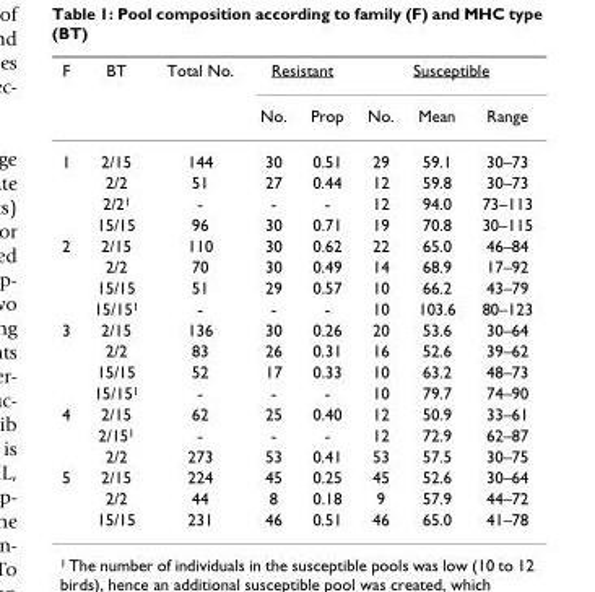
<table><thead><tr><td rowspan="2">F</td><td rowspan="2">BT</td><td rowspan="2">Total No.</td><td colspan="2">Resistant</td><td colspan="3">Susceptible</td></tr><tr><td>No.</td><td>Prop</td><td>No.</td><td>Mean</td><td>Range</td></tr></thead><tbody><tr><td rowspan="4">1</td><td>2/15</td><td>144</td><td>30</td><td>0.51</td><td>29</td><td>59.1</td><td>30–73</td></tr><tr><td>2/2</td><td>51</td><td>27</td><td>0.44</td><td>12</td><td>59.8</td><td>30–73</td></tr><tr><td>2/2<sup>1</sup></td><td>-</td><td>-</td><td>-</td><td>12</td><td>94.0</td><td>73–113</td></tr><tr><td>15/15</td><td>96</td><td>30</td><td>0.71</td><td>19</td><td>70.8</td><td>30–115</td></tr><tr><td rowspan="4">2</td><td>2/15</td><td>110</td><td>30</td><td>0.62</td><td>22</td><td>65.0</td><td>46–84</td></tr><tr><td>2/2</td><td>70</td><td>30</td><td>0.49</td><td>14</td><td>68.9</td><td>17–92</td></tr><tr><td>15/15</td><td>51</td><td>29</td><td>0.57</td><td>10</td><td>66.2</td><td>43–79</td></tr><tr><td>15/15<sup>1</sup></td><td>-</td><td>-</td><td>-</td><td>10</td><td>103.6</td><td>80–123</td></tr><tr><td rowspan="4">3</td><td>2/15</td><td>136</td><td>30</td><td>0.26</td><td>20</td><td>53.6</td><td>30–64</td></tr><tr><td>2/2</td><td>83</td><td>26</td><td>0.31</td><td>16</td><td>52.6</td><td>39–62</td></tr><tr><td>15/15</td><td>52</td><td>17</td><td>0.33</td><td>10</td><td>63.2</td><td>48–73</td></tr><tr><td>15/15<sup>1</sup></td><td>-</td><td>-</td><td>-</td><td>10</td><td>79.7</td><td>74–90</td></tr><tr><td rowspan="3">4</td><td>2/15</td><td>62</td><td>25</td><td>0.40</td><td>12</td><td>50.9</td><td>33–61</td></tr><tr><td>2/15<sup>1</sup></td><td>-</td><td>-</td><td>-</td><td>12</td><td>72.9</td><td>62–87</td></tr><tr><td>2/2</td><td>273</td><td>53</td><td>0.41</td><td>53</td><td>57.5</td><td>30–75</td></tr><tr><td rowspan="3">5</td><td>2/15</td><td>224</td><td>45</td><td>0.25</td><td>45</td><td>52.6</td><td>30–64</td></tr><tr><td>2/2</td><td>44</td><td>8</td><td>0.18</td><td>9</td><td>57.9</td><td>44–72</td></tr><tr><td>15/15</td><td>231</td><td>46</td><td>0.51</td><td>46</td><td>65.0</td><td>41–78</td></tr></tbody></table>